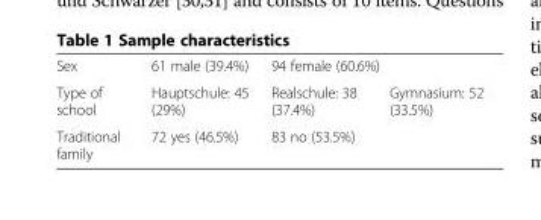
<table><tbody><tr><td>Sex</td><td>61 male (39.4%)</td><td colspan="2">94 female (60.6%)</td></tr><tr><td>Type of school</td><td>Hauptschule: 45 (29%)</td><td>Realschule: 38 (37.4%)</td><td>Gymnasium: 52 (33.5%)</td></tr><tr><td>Traditional family</td><td>72 yes (46.5%)</td><td colspan="2">83 no (53.5%)</td></tr></tbody></table>